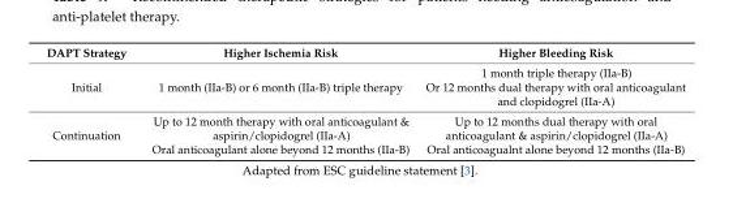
<table><thead><tr><td>DAPT Strategy</td><td>Higher Ischemia Risk</td><td>Higher Bleeding Risk</td></tr></thead><tbody><tr><td>Initial</td><td>1 month (IIa-B) or 6 month (IIa-B) triple therapy</td><td>1 month triple therapy (IIa-B) Or 12 months dual therapy with oral anticoagulant and clopidogrel (IIa-A)</td></tr><tr><td>Continuation</td><td>Up to 12 month therapy with oral anticoagulant &amp; aspirin/clopidogrel (IIa-A) Oral anticoagulant alone beyond 12 months (IIa-B)</td><td>Up to 12 months dual therapy with oral anticoagulant &amp; aspirin/clopidogrel (IIa-A) Oral anticoagualnt alone beyond 12 months (IIa-B)</td></tr></tbody></table>